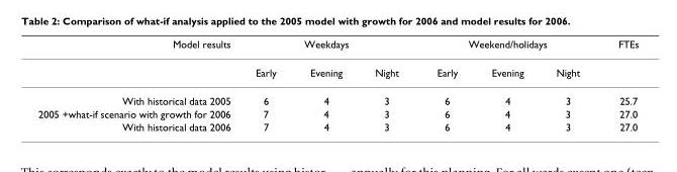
<table><thead><tr><td rowspan="2">Model results</td><td colspan="3">Weekdays</td><td colspan="3">Weekend/holidays</td><td rowspan="2">FTEs</td></tr><tr><td>Early</td><td>Evening</td><td>Night</td><td>Early</td><td>Evening</td><td>Night</td></tr></thead><tbody><tr><td>With historical data 2005</td><td>6</td><td>4</td><td>3</td><td>6</td><td>4</td><td>3</td><td>25.7</td></tr><tr><td>2005 +what-if scenario with growth for 2006</td><td>7</td><td>4</td><td>3</td><td>6</td><td>4</td><td>3</td><td>27.0</td></tr><tr><td>With historical data 2006</td><td>7</td><td>4</td><td>3</td><td>6</td><td>4</td><td>3</td><td>27.0</td></tr></tbody></table>